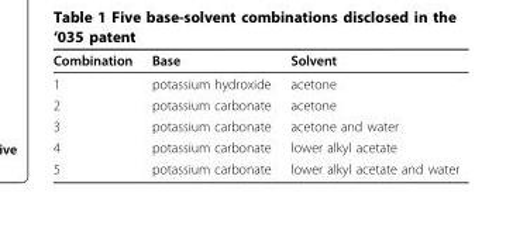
<table><thead><tr><td>Combination</td><td>Base</td><td>Solvent</td></tr></thead><tbody><tr><td>1</td><td>potassium hydroxide</td><td>acetone</td></tr><tr><td>2</td><td>potassium carbonate</td><td>acetone</td></tr><tr><td>3</td><td>potassium carbonate</td><td>acetone and water</td></tr><tr><td>4</td><td>potassium carbonate</td><td>lower alkyl acetate</td></tr><tr><td>5</td><td>potassium carbonate</td><td>lower alkyl acetate and water</td></tr></tbody></table>